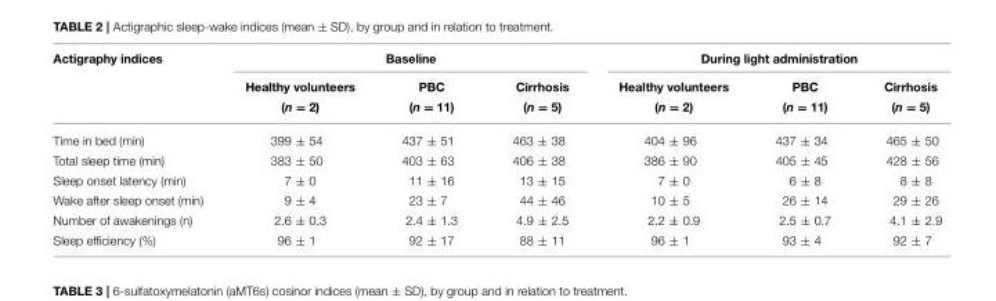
<table><thead><tr><td rowspan="3">Actigraphy indices</td><td colspan="3">Baseline</td><td colspan="3">During light administration</td></tr><tr><td rowspan="2">Healthy volunteers (n = 2)</td><td rowspan="2">PBC (n = 11)</td><td rowspan="2">Cirrhosis (n = 5)</td><td rowspan="2">Healthy volunteers (n = 2)</td><td rowspan="2">PBC (n = 11)</td><td rowspan="2">Cirrhosis (n = 5)</td></tr><tr></tr></thead><tbody><tr><td>Time in bed (min)</td><td>399 ± 54</td><td>437 ± 51</td><td>463 ± 38</td><td>404 ± 96</td><td>437 ± 34</td><td>465 ± 50</td></tr><tr><td>Total sleep time (min)</td><td>383 ± 50</td><td>403 ± 63</td><td>406 ± 38</td><td>386 ± 90</td><td>405 ± 45</td><td>428 ± 56</td></tr><tr><td>Sleep onset latency (min)</td><td>7 ± 0</td><td>11 ± 16</td><td>13 ± 15</td><td>7 ± 0</td><td>6 ± 8</td><td>8 ± 8</td></tr><tr><td>Wake after sleep onset (min)</td><td>9 ± 4</td><td>23 ± 7</td><td>44 ± 46</td><td>10 ± 5</td><td>26 ± 14</td><td>29 ± 26</td></tr><tr><td>Number of awakenings (n)</td><td>2.6 ± 0.3</td><td>2.4 ± 1.3</td><td>4.9 ± 2.5</td><td>2.2 ± 0.9</td><td>2.5 ± 0.7</td><td>4.1 ± 2.9</td></tr><tr><td>Sleep efficiency (%)</td><td>96 ± 1</td><td>92 ± 17</td><td>88 ± 11</td><td>96 ± 1</td><td>93 ± 4</td><td>92 ± 7</td></tr></tbody></table>